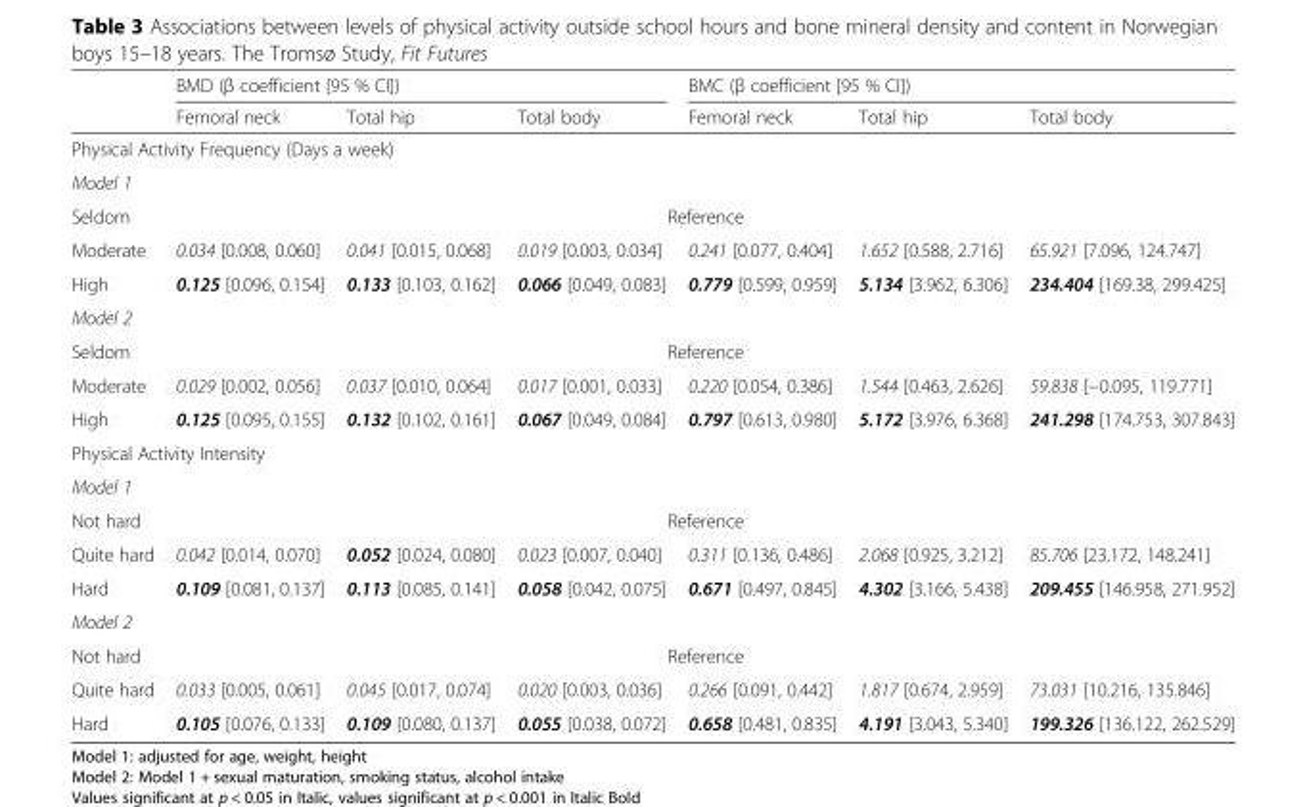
<table><thead><tr><td rowspan="2"></td><td colspan="3">BMD (β coefficient [95 % CI])</td><td colspan="3">BMC (β coefficient [95 % CI])</td></tr><tr><td>Femoral neck</td><td>Total hip</td><td>Total body</td><td>Femoral neck</td><td>Total hip</td><td>Total body</td></tr></thead><tbody><tr><td colspan="7">Physical Activity Frequency (Days a week)</td></tr><tr><td colspan="7">Model 1</td></tr><tr><td>Seldom</td><td colspan="6">Reference</td></tr><tr><td>Moderate</td><td>0.034 [0.008, 0.060]</td><td>0.041 [0.015, 0.068]</td><td>0.019 [0.003, 0.034]</td><td>0.241 [0.077, 0.404]</td><td>1.652 [0.588, 2.716]</td><td>65.921 [7.096, 124.747]</td></tr><tr><td>High</td><td>0.125 [0.096, 0.154]</td><td>0.133 [0.103, 0.162]</td><td>0.066 [0.049, 0.083]</td><td>0.779 [0.599, 0.959]</td><td>5.134 [3.962, 6.306]</td><td>234.404 [169.38, 299.425]</td></tr><tr><td colspan="7">Model 2</td></tr><tr><td>Seldom</td><td colspan="6">Reference</td></tr><tr><td>Moderate</td><td>0.029 [0.002, 0.056]</td><td>0.037 [0.010, 0.064]</td><td>0.017 [0.001, 0.033]</td><td>0.220 [0.054, 0.386]</td><td>1.544 [0.463, 2.626]</td><td>59.838 [−0.095, 119.771]</td></tr><tr><td>High</td><td>0.125 [0.095, 0.155]</td><td>0.132 [0.102, 0.161]</td><td>0.067 [0.049, 0.084]</td><td>0.797 [0.613, 0.980]</td><td>5.172 [3.976, 6.368]</td><td>241.298 [174.753, 307.843]</td></tr><tr><td colspan="7">Physical Activity Intensity</td></tr><tr><td colspan="7">Model 1</td></tr><tr><td>Not hard</td><td colspan="6">Reference</td></tr><tr><td>Quite hard</td><td>0.042 [0.014, 0.070]</td><td>0.052 [0.024, 0.080]</td><td>0.023 [0.007, 0.040]</td><td>0.311 [0.136, 0.486]</td><td>2.068 [0.925, 3.212]</td><td>85.706 [23.172, 148.241]</td></tr><tr><td>Hard</td><td>0.109 [0.081, 0.137]</td><td>0.113 [0.085, 0.141]</td><td>0.058 [0.042, 0.075]</td><td>0.671 [0.497, 0.845]</td><td>4.302 [3.166, 5.438]</td><td>209.455 [146.958, 271.952]</td></tr><tr><td colspan="7">Model 2</td></tr><tr><td>Not hard</td><td colspan="6">Reference</td></tr><tr><td>Quite hard</td><td>0.033 [0.005, 0.061]</td><td>0.045 [0.017, 0.074]</td><td>0.020 [0.003, 0.036]</td><td>0.266 [0.091, 0.442]</td><td>1.817 [0.674, 2.959]</td><td>73.031 [10.216, 135.846]</td></tr><tr><td>Hard</td><td>0.105 [0.076, 0.133]</td><td>0.109 [0.080, 0.137]</td><td>0.055 [0.038, 0.072]</td><td>0.658 [0.481, 0.835]</td><td>4.191 [3.043, 5.340]</td><td>199.326 [136.122, 262.529]</td></tr></tbody></table>